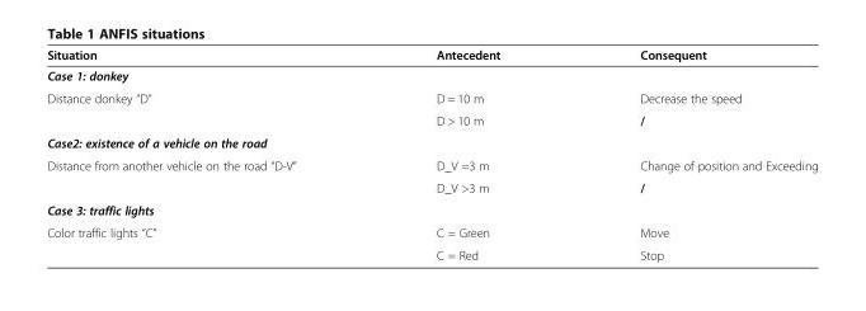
<table><thead><tr><td>Situation</td><td>Antecedent</td><td>Consequent</td></tr></thead><tbody><tr><td colspan="3">Case 1: donkey</td></tr><tr><td rowspan="2">Distance donkey “D”</td><td>D = 10 m</td><td>Decrease the speed</td></tr><tr><td>D &gt; 10 m</td><td>/</td></tr><tr><td colspan="3">Case2: existence of a vehicle on the road</td></tr><tr><td rowspan="2">Distance from another vehicle on the road “D-V”</td><td>D_V =3 m</td><td>Change of position and Exceeding</td></tr><tr><td>D_V &gt;3 m</td><td>/</td></tr><tr><td colspan="3">Case 3: traffic lights</td></tr><tr><td rowspan="2">Color traffic lights “C”</td><td>C = Green</td><td>Move</td></tr><tr><td>C = Red</td><td>Stop</td></tr></tbody></table>